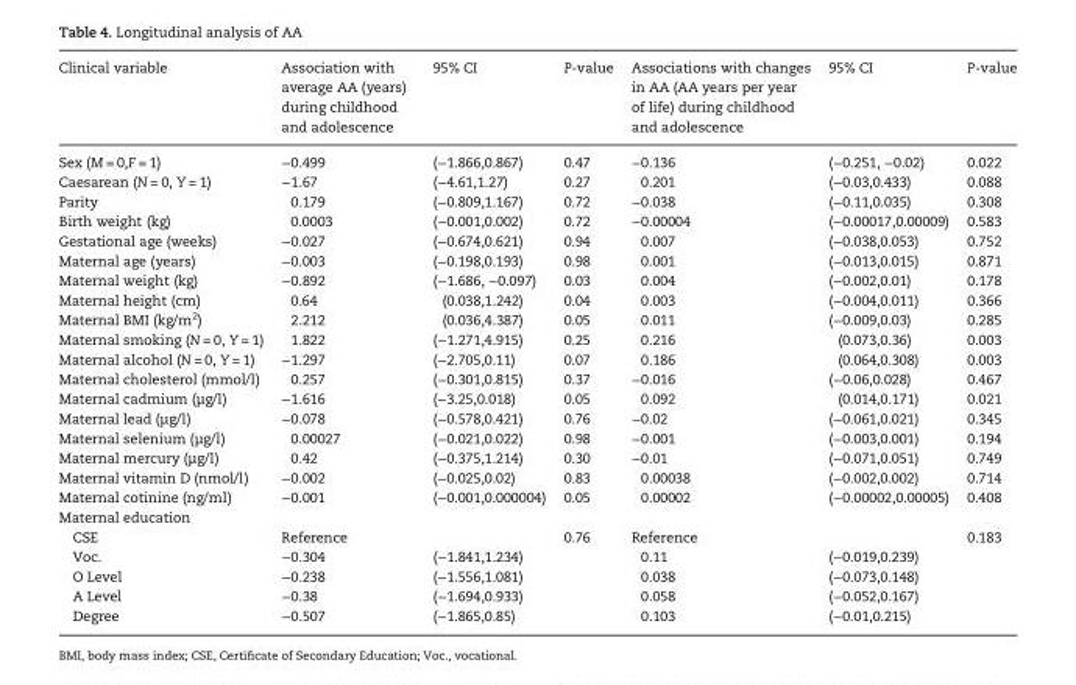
<table><thead><tr><td>Clinical variable</td><td>Association with average AA (years) during childhood and adolescence</td><td>95% CI</td><td>P-value</td><td>Associations with changes in AA (AA years per year of life) during childhood and adolescence</td><td>95% CI</td><td>P-value</td></tr></thead><tbody><tr><td>Sex (M = 0,F = 1)</td><td>−0.499</td><td>(−1.866,0.867)</td><td>0.47</td><td>−0.136</td><td>(−0.251, −0.02)</td><td>0.022</td></tr><tr><td>Caesarean (N = 0, Y = 1)</td><td>−1.67</td><td>(−4.61,1.27)</td><td>0.27</td><td>0.201</td><td>(−0.03,0.433)</td><td>0.088</td></tr><tr><td>Parity</td><td>0.179</td><td>(−0.809,1.167)</td><td>0.72</td><td>−0.038</td><td>(−0.11,0.035)</td><td>0.308</td></tr><tr><td>Birth weight (kg)</td><td>0.0003</td><td>(−0.001,0.002)</td><td>0.72</td><td>−0.00004</td><td>(−0.00017,0.00009)</td><td>0.583</td></tr><tr><td>Gestational age (weeks)</td><td>−0.027</td><td>(−0.674,0.621)</td><td>0.94</td><td>0.007</td><td>(−0.038,0.053)</td><td>0.752</td></tr><tr><td>Maternal age (years)</td><td>−0.003</td><td>(−0.198,0.193)</td><td>0.98</td><td>0.001</td><td>(−0.013,0.015)</td><td>0.871</td></tr><tr><td>Maternal weight (kg)</td><td>−0.892</td><td>(−1.686, −0.097)</td><td>0.03</td><td>0.004</td><td>(−0.002,0.01)</td><td>0.178</td></tr><tr><td>Maternal height (cm)</td><td>0.64</td><td>(0.038,1.242)</td><td>0.04</td><td>0.003</td><td>(−0.004,0.011)</td><td>0.366</td></tr><tr><td>Maternal BMI (kg/m<sup>2</sup>)</td><td>2.212</td><td>(0.036,4.387)</td><td>0.05</td><td>0.011</td><td>(−0.009,0.03)</td><td>0.285</td></tr><tr><td>Maternal smoking (N = 0, Y = 1)</td><td>1.822</td><td>(−1.271,4.915)</td><td>0.25</td><td>0.216</td><td>(0.073,0.36)</td><td>0.003</td></tr><tr><td>Maternal alcohol (N = 0, Y = 1)</td><td>−1.297</td><td>(−2.705,0.11)</td><td>0.07</td><td>0.186</td><td>(0.064,0.308)</td><td>0.003</td></tr><tr><td>Maternal cholesterol (mmol/l)</td><td>0.257</td><td>(−0.301,0.815)</td><td>0.37</td><td>−0.016</td><td>(−0.06,0.028)</td><td>0.467</td></tr><tr><td>Maternal cadmium (µg/l)</td><td>−1.616</td><td>(−3.25,0.018)</td><td>0.05</td><td>0.092</td><td>(0.014,0.171)</td><td>0.021</td></tr><tr><td>Maternal lead (µg/l)</td><td>−0.078</td><td>(−0.578,0.421)</td><td>0.76</td><td>−0.02</td><td>(−0.061,0.021)</td><td>0.345</td></tr><tr><td>Maternal selenium (µg/l)</td><td>0.00027</td><td>(−0.021,0.022)</td><td>0.98</td><td>−0.001</td><td>(−0.003,0.001)</td><td>0.194</td></tr><tr><td>Maternal mercury (µg/l)</td><td>0.42</td><td>(−0.375,1.214)</td><td>0.30</td><td>−0.01</td><td>(−0.071,0.051)</td><td>0.749</td></tr><tr><td>Maternal vitamin D (nmol/l)</td><td>−0.002</td><td>(−0.025,0.02)</td><td>0.83</td><td>0.00038</td><td>(−0.002,0.002)</td><td>0.714</td></tr><tr><td>Maternal cotinine (ng/ml)</td><td>−0.001</td><td>(−0.001,0.000004)</td><td>0.05</td><td>0.00002</td><td>(−0.00002,0.00005)</td><td>0.408</td></tr><tr><td colspan="7">Maternal education</td></tr><tr><td>CSE</td><td>Reference</td><td></td><td>0.76</td><td>Reference</td><td></td><td>0.183</td></tr><tr><td>Voc.</td><td>−0.304</td><td>(−1.841,1.234)</td><td></td><td>0.11</td><td>(−0.019,0.239)</td><td></td></tr><tr><td>O Level</td><td>−0.238</td><td>(−1.556,1.081)</td><td></td><td>0.038</td><td>(−0.073,0.148)</td><td></td></tr><tr><td>A Level</td><td>−0.38</td><td>(−1.694,0.933)</td><td></td><td>0.058</td><td>(−0.052,0.167)</td><td></td></tr><tr><td>Degree</td><td>−0.507</td><td>(−1.865,0.85)</td><td></td><td>0.103</td><td>(−0.01,0.215)</td><td></td></tr></tbody></table>